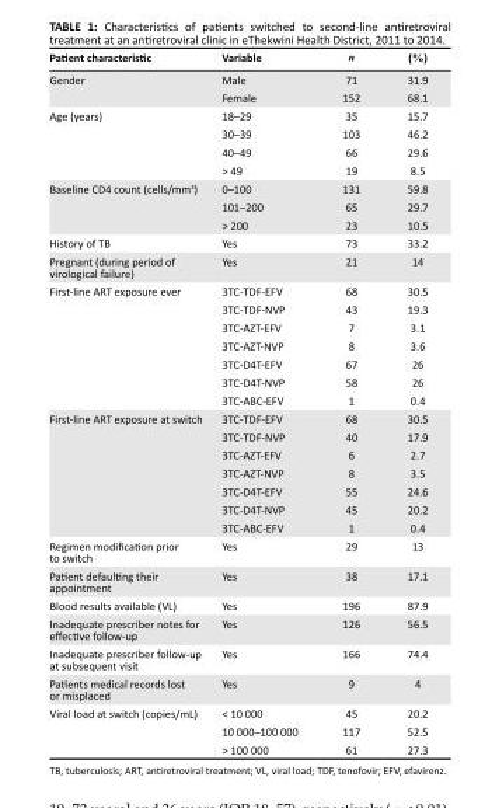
<table><thead><tr><td>Patient characteristic</td><td>Variable</td><td>n</td><td>(%)</td></tr></thead><tbody><tr><td rowspan="2">Gender</td><td>Male</td><td>71</td><td>31.9</td></tr><tr><td>Female</td><td>152</td><td>68.1</td></tr><tr><td rowspan="4">Age (years)</td><td>18–29</td><td>35</td><td>15.7</td></tr><tr><td>30–39</td><td>103</td><td>46.2</td></tr><tr><td>40–49</td><td>66</td><td>29.6</td></tr><tr><td>&gt; 49</td><td>19</td><td>8.5</td></tr><tr><td rowspan="3">Baseline CD4 count (cells/mm<sup>3</sup>)</td><td>0–100</td><td>131</td><td>59.8</td></tr><tr><td>101–200</td><td>65</td><td>29.7</td></tr><tr><td>&gt; 200</td><td>23</td><td>10.5</td></tr><tr><td>History of TB</td><td>Yes</td><td>73</td><td>33.2</td></tr><tr><td>Pregnant (during period of virological failure)</td><td>Yes</td><td>21</td><td>14</td></tr><tr><td rowspan="7">First-line ART exposure ever</td><td>3TC-TDF-EFV</td><td>68</td><td>30.5</td></tr><tr><td>3TC-TDF-NVP</td><td>43</td><td>19.3</td></tr><tr><td>3TC-AZT-EFV</td><td>7</td><td>3.1</td></tr><tr><td>3TC-AZT-NVP</td><td>8</td><td>3.6</td></tr><tr><td>3TC-D4T-EFV</td><td>67</td><td>26</td></tr><tr><td>3TC-D4T-NVP</td><td>58</td><td>26</td></tr><tr><td>3TC-ABC-EFV</td><td>1</td><td>0.4</td></tr><tr><td rowspan="7">First-line ART exposure at switch</td><td>3TC-TDF-EFV</td><td>68</td><td>30.5</td></tr><tr><td>3TC-TDF-NVP</td><td>40</td><td>17.9</td></tr><tr><td>3TC-AZT-EFV</td><td>6</td><td>2.7</td></tr><tr><td>3TC-AZT-NVP</td><td>8</td><td>3.5</td></tr><tr><td>3TC-D4T-EFV</td><td>55</td><td>24.6</td></tr><tr><td>3TC-D4T-NVP</td><td>45</td><td>20.2</td></tr><tr><td>3TC-ABC-EFV</td><td>1</td><td>0.4</td></tr><tr><td>Regimen modification prior to switch</td><td>Yes</td><td>29</td><td>13</td></tr><tr><td>Patient defaulting their appointment</td><td>Yes</td><td>38</td><td>17.1</td></tr><tr><td>Blood results available (VL)</td><td>Yes</td><td>196</td><td>87.9</td></tr><tr><td>Inadequate prescriber notes for effective follow-up</td><td>Yes</td><td>126</td><td>56.5</td></tr><tr><td>Inadequate prescriber follow-up at subsequent visit</td><td>Yes</td><td>166</td><td>74.4</td></tr><tr><td>Patients medical records lost or misplaced</td><td>Yes</td><td>9</td><td>4</td></tr><tr><td rowspan="3">Viral load at switch (copies/mL)</td><td>&lt; 10 000</td><td>45</td><td>20.2</td></tr><tr><td>10 000–100 000</td><td>117</td><td>52.5</td></tr><tr><td>&gt; 100 000</td><td>61</td><td>27.3</td></tr></tbody></table>